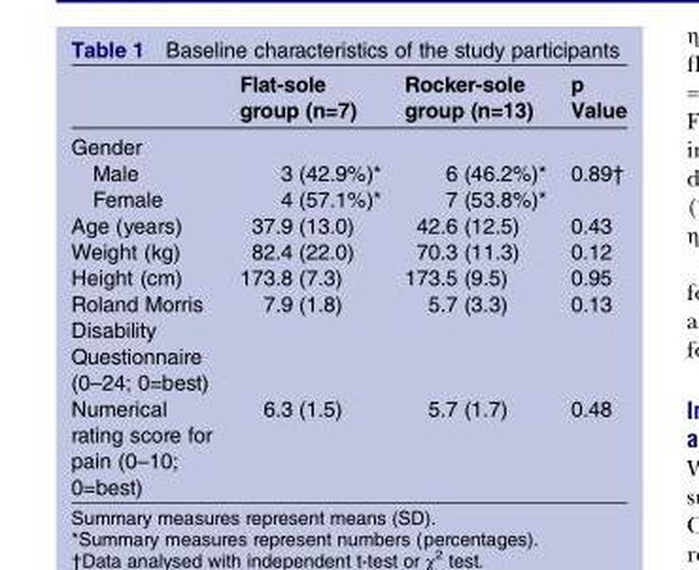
<table><thead><tr><td></td><td>Flat-sole group (n=7)</td><td>Rocker-sole group (n=13)</td><td>p Value</td></tr></thead><tbody><tr><td colspan="4">Gender</td></tr><tr><td>Male</td><td>3 (42.9%)*</td><td>6 (46.2%)*</td><td>0.89†</td></tr><tr><td>Female</td><td>4 (57.1%)*</td><td>7 (53.8%)*</td><td></td></tr><tr><td>Age (years)</td><td>37.9 (13.0)</td><td>42.6 (12.5)</td><td>0.43</td></tr><tr><td>Weight (kg)</td><td>82.4 (22.0)</td><td>70.3 (11.3)</td><td>0.12</td></tr><tr><td>Height (cm)</td><td>173.8 (7.3)</td><td>173.5 (9.5)</td><td>0.95</td></tr><tr><td>Roland Morris Disability Questionnaire (0–24; 0=best)</td><td>7.9 (1.8)</td><td>5.7 (3.3)</td><td>0.13</td></tr><tr><td>Numerical rating score for pain (0–10; 0=best)</td><td>6.3 (1.5)</td><td>5.7 (1.7)</td><td>0.48</td></tr></tbody></table>